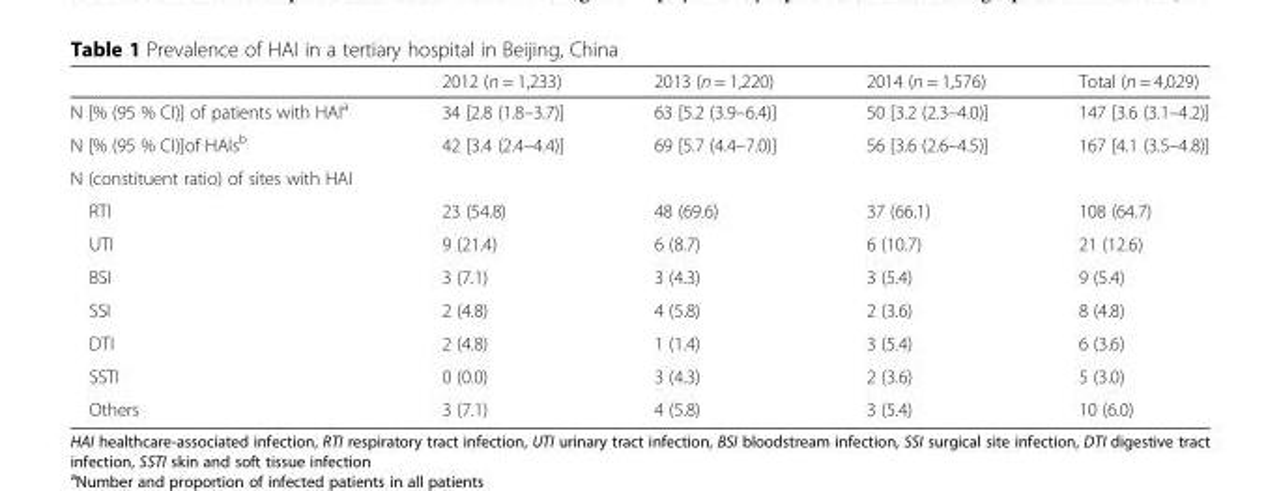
<table><thead><tr><td></td><td>2012 (n = 1,233)</td><td>2013 (n = 1,220)</td><td>2014 (n = 1,576)</td><td>Total (n = 4,029)</td></tr></thead><tbody><tr><td>N [% (95 % CI)] of patients with HAI<sup>a</sup></td><td>34 [2.8 (1.8–3.7)]</td><td>63 [5.2 (3.9–6.4)]</td><td>50 [3.2 (2.3–4.0)]</td><td>147 [3.6 (3.1–4.2)]</td></tr><tr><td>N [% (95 % CI)]of HAIs<sup>b</sup></td><td>42 [3.4 (2.4–4.4)]</td><td>69 [5.7 (4.4–7.0)]</td><td>56 [3.6 (2.6–4.5)]</td><td>167 [4.1 (3.5–4.8)]</td></tr><tr><td colspan="5">N (constituent ratio) of sites with HAI</td></tr><tr><td>RTI</td><td>23 (54.8)</td><td>48 (69.6)</td><td>37 (66.1)</td><td>108 (64.7)</td></tr><tr><td>UTI</td><td>9 (21.4)</td><td>6 (8.7)</td><td>6 (10.7)</td><td>21 (12.6)</td></tr><tr><td>BSI</td><td>3 (7.1)</td><td>3 (4.3)</td><td>3 (5.4)</td><td>9 (5.4)</td></tr><tr><td>SSI</td><td>2 (4.8)</td><td>4 (5.8)</td><td>2 (3.6)</td><td>8 (4.8)</td></tr><tr><td>DTI</td><td>2 (4.8)</td><td>1 (1.4)</td><td>3 (5.4)</td><td>6 (3.6)</td></tr><tr><td>SSTI</td><td>0 (0.0)</td><td>3 (4.3)</td><td>2 (3.6)</td><td>5 (3.0)</td></tr><tr><td>Others</td><td>3 (7.1)</td><td>4 (5.8)</td><td>3 (5.4)</td><td>10 (6.0)</td></tr></tbody></table>